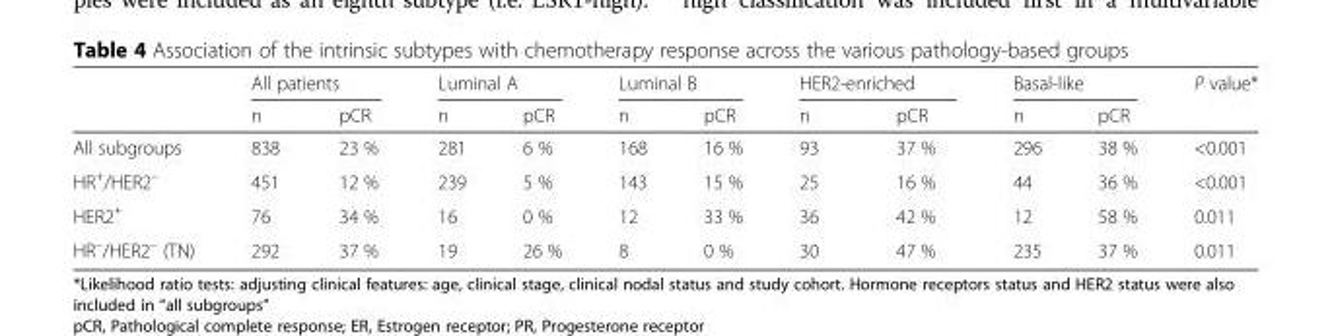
<table><thead><tr><td rowspan="2"></td><td colspan="2">All patients</td><td colspan="2">Luminal A</td><td colspan="2">Luminal B</td><td colspan="2">HER2-enriched</td><td colspan="2">Basal-like</td><td rowspan="2">P value*</td></tr><tr><td>n</td><td>pCR</td><td>n</td><td>pCR</td><td>n</td><td>pCR</td><td>n</td><td>pCR</td><td>n</td><td>pCR</td></tr></thead><tbody><tr><td>All subgroups</td><td>838</td><td>23 %</td><td>281</td><td>6 %</td><td>168</td><td>16 %</td><td>93</td><td>37 %</td><td>296</td><td>38 %</td><td>&lt;0.001</td></tr><tr><td>HR<sup>+</sup>/HER2<sup>–</sup></td><td>451</td><td>12 %</td><td>239</td><td>5 %</td><td>143</td><td>15 %</td><td>25</td><td>16 %</td><td>44</td><td>36 %</td><td>&lt;0.001</td></tr><tr><td>HER2<sup>+</sup></td><td>76</td><td>34 %</td><td>16</td><td>0 %</td><td>12</td><td>33 %</td><td>36</td><td>42 %</td><td>12</td><td>58 %</td><td>0.011</td></tr><tr><td>HR<sup>–</sup>/HER2<sup>–</sup> (TN)</td><td>292</td><td>37 %</td><td>19</td><td>26 %</td><td>8</td><td>0 %</td><td>30</td><td>47 %</td><td>235</td><td>37 %</td><td>0.011</td></tr></tbody></table>